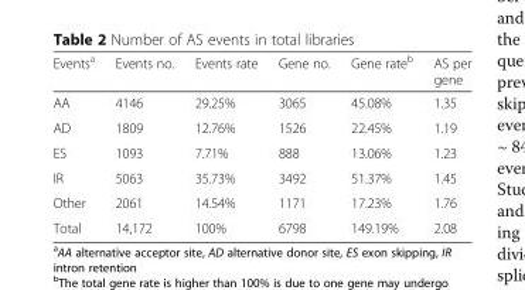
<table><thead><tr><td>Events<sup>a</sup></td><td>Events no.</td><td>Events rate</td><td>Gene no.</td><td>Gene rate<sup>b</sup></td><td>AS per gene</td></tr></thead><tbody><tr><td>AA</td><td>4146</td><td>29.25%</td><td>3065</td><td>45.08%</td><td>1.35</td></tr><tr><td>AD</td><td>1809</td><td>12.76%</td><td>1526</td><td>22.45%</td><td>1.19</td></tr><tr><td>ES</td><td>1093</td><td>7.71%</td><td>888</td><td>13.06%</td><td>1.23</td></tr><tr><td>IR</td><td>5063</td><td>35.73%</td><td>3492</td><td>51.37%</td><td>1.45</td></tr><tr><td>Other</td><td>2061</td><td>14.54%</td><td>1171</td><td>17.23%</td><td>1.76</td></tr><tr><td>Total</td><td>14,172</td><td>100%</td><td>6798</td><td>149.19%</td><td>2.08</td></tr></tbody></table>